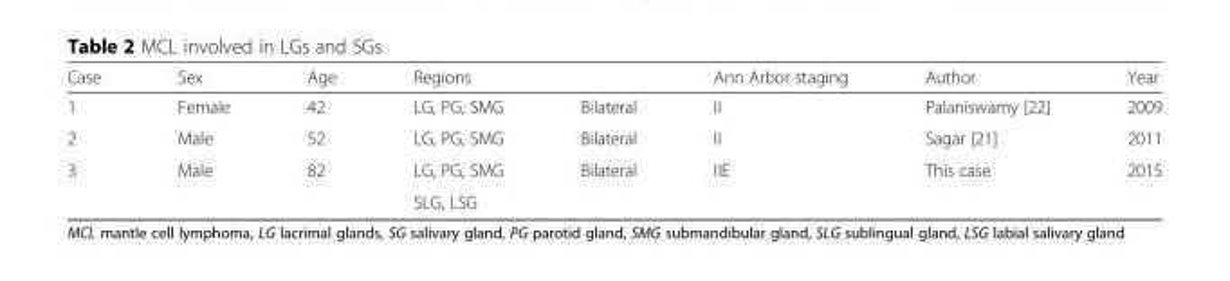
<table><thead><tr><td>Case</td><td>Sex</td><td>Age</td><td>Regions</td><td></td><td>Ann Arbor staging</td><td>Author</td><td>Year</td></tr></thead><tbody><tr><td>1</td><td>Female</td><td>42</td><td>LG, PG, SMG</td><td>Bilateral</td><td>II</td><td>Palaniswamy [22]</td><td>2009</td></tr><tr><td>2</td><td>Male</td><td>52</td><td>LG, PG, SMG</td><td>Bilateral</td><td>II</td><td>Sagar [21]</td><td>2011</td></tr><tr><td rowspan="2">3</td><td rowspan="2">Male</td><td rowspan="2">82</td><td>LG, PG, SMG</td><td rowspan="2">Bilateral</td><td rowspan="2">IIE</td><td rowspan="2">This case</td><td rowspan="2">2015</td></tr><tr><td>SLG, LSG</td></tr></tbody></table>